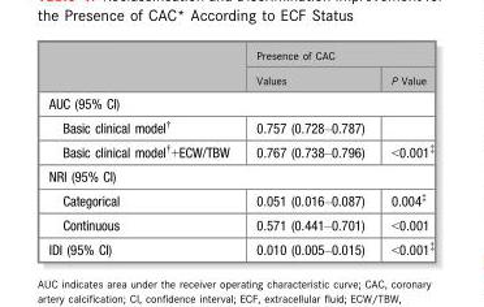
<table><thead><tr><td rowspan="2"></td><td colspan="2">Presence of CAC</td></tr><tr><td>Values</td><td>P Value</td></tr></thead><tbody><tr><td colspan="3">AUC (95% CI)</td></tr><tr><td>Basic clinical model†</td><td>0.757 (0.728–0.787)</td><td></td></tr><tr><td>Basic clinical model†+ECW/TBW</td><td>0.767 (0.738–0.796)</td><td>&lt;0.001‡</td></tr><tr><td colspan="3">NRI (95% CI)</td></tr><tr><td>Categorical</td><td>0.051 (0.016–0.087)</td><td>0.004‡</td></tr><tr><td>Continuous</td><td>0.571 (0.441–0.701)</td><td>&lt;0.001</td></tr><tr><td>IDI (95% CI)</td><td>0.010 (0.005–0.015)</td><td>&lt;0.001‡</td></tr></tbody></table>